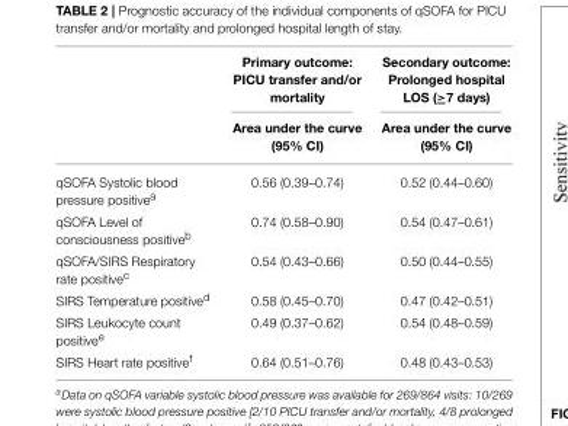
<table><thead><tr><td rowspan="2"></td><td rowspan="2">Primary outcome: PICU transfer and/or mortality Area under the curve (95% CI)</td><td rowspan="2">Secondary outcome: Prolonged hospital LOS (≥7 days) Area under the curve (95% CI)</td></tr><tr></tr></thead><tbody><tr><td>qSOFA Systolic blood pressure positive<sup>a</sup></td><td>0.56 (0.39–0.74)</td><td>0.52 (0.44–0.60)</td></tr><tr><td>qSOFA Level of consciousness positive<sup>b</sup></td><td>0.74 (0.58–0.90)</td><td>0.54 (0.47–0.61)</td></tr><tr><td>qSOFA/SIRS Respiratory rate positive<sup>c</sup></td><td>0.54 (0.43–0.66)</td><td>0.50 (0.44–0.55)</td></tr><tr><td>SIRS Temperature positive<sup>d</sup></td><td>0.58 (0.45–0.70)</td><td>0.47 (0.42–0.51)</td></tr><tr><td>SIRS Leukocyte count positive<sup>e</sup></td><td>0.49 (0.37–0.62)</td><td>0.54 (0.48–0.59)</td></tr><tr><td>SIRS Heart rate positive<sup>f</sup></td><td>0.64 (0.51–0.76)</td><td>0.48 (0.43–0.53)</td></tr></tbody></table>